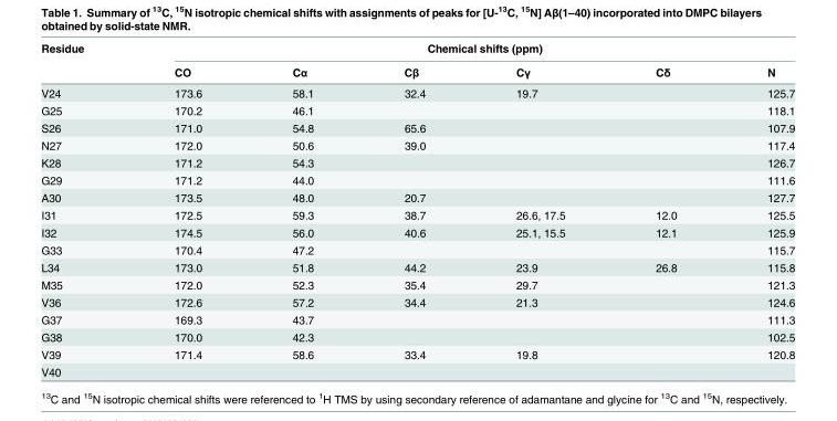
<table><thead><tr><td rowspan="2">Residue</td><td colspan="6">Chemical shifts (ppm)</td></tr><tr><td>CO</td><td>Cα</td><td>Cβ</td><td>Cγ</td><td>Cδ</td><td>N</td></tr></thead><tbody><tr><td>V24</td><td>173.6</td><td>58.1</td><td>32.4</td><td>19.7</td><td></td><td>125.7</td></tr><tr><td>G25</td><td>170.2</td><td>46.1</td><td></td><td></td><td></td><td>118.1</td></tr><tr><td>S26</td><td>171.0</td><td>54.8</td><td>65.6</td><td></td><td></td><td>107.9</td></tr><tr><td>N27</td><td>172.0</td><td>50.6</td><td>39.0</td><td></td><td></td><td>117.4</td></tr><tr><td>K28</td><td>171.2</td><td>54.3</td><td></td><td></td><td></td><td>126.7</td></tr><tr><td>G29</td><td>171.2</td><td>44.0</td><td></td><td></td><td></td><td>111.6</td></tr><tr><td>A30</td><td>173.5</td><td>48.0</td><td>20.7</td><td></td><td></td><td>127.7</td></tr><tr><td>I31</td><td>172.5</td><td>59.3</td><td>38.7</td><td>26.6, 17.5</td><td>12.0</td><td>125.5</td></tr><tr><td>I32</td><td>174.5</td><td>56.0</td><td>40.6</td><td>25.1, 15.5</td><td>12.1</td><td>125.9</td></tr><tr><td>G33</td><td>170.4</td><td>47.2</td><td></td><td></td><td></td><td>115.7</td></tr><tr><td>L34</td><td>173.0</td><td>51.8</td><td>44.2</td><td>23.9</td><td>26.8</td><td>115.8</td></tr><tr><td>M35</td><td>172.0</td><td>52.3</td><td>35.4</td><td>29.7</td><td></td><td>121.3</td></tr><tr><td>V36</td><td>172.6</td><td>57.2</td><td>34.4</td><td>21.3</td><td></td><td>124.6</td></tr><tr><td>G37</td><td>169.3</td><td>43.7</td><td></td><td></td><td></td><td>111.3</td></tr><tr><td>G38</td><td>170.0</td><td>42.3</td><td></td><td></td><td></td><td>102.5</td></tr><tr><td>V39</td><td>171.4</td><td>58.6</td><td>33.4</td><td>19.8</td><td></td><td>120.8</td></tr><tr><td>V40</td><td></td><td></td><td></td><td></td><td></td><td></td></tr></tbody></table>